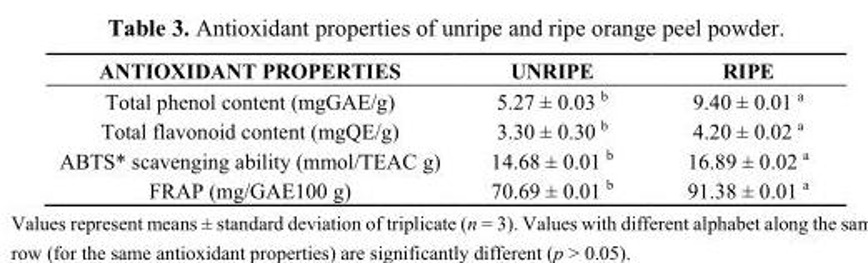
<table><thead><tr><td>ANTIOXIDANT PROPERTIES</td><td>UNRIPE</td><td>RIPE</td></tr></thead><tbody><tr><td>Total phenol content (mgGAE/g)</td><td>5.27 ± 0.03 <sup>b</sup></td><td>9.40 ± 0.01 <sup>a</sup></td></tr><tr><td>Total flavonoid content (mgQE/g)</td><td>3.30 ± 0.30 <sup>b</sup></td><td>4.20 ± 0.02 <sup>a</sup></td></tr><tr><td>ABTS* scavenging ability (mmol/TEAC g)</td><td>14.68 ± 0.01 <sup>b</sup></td><td>16.89 ± 0.02 <sup>a</sup></td></tr><tr><td>FRAP (mg/GAE100 g)</td><td>70.69 ± 0.01 <sup>b</sup></td><td>91.38 ± 0.01 <sup>a</sup></td></tr></tbody></table>